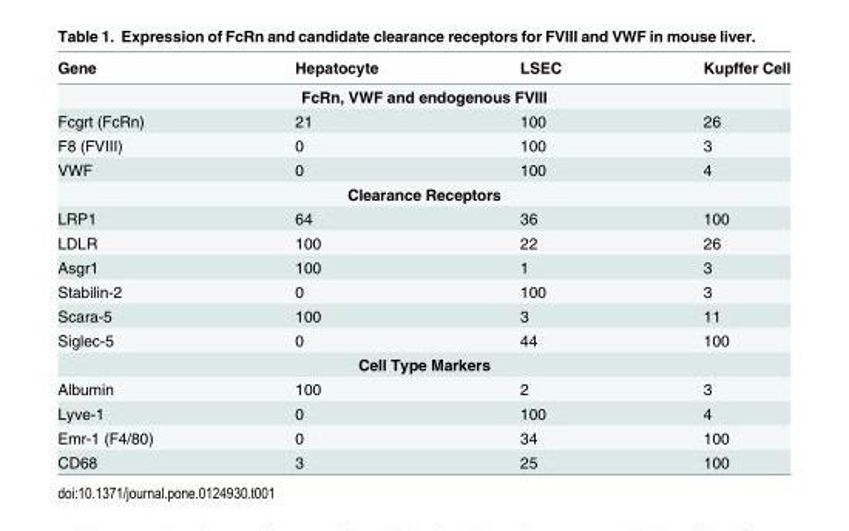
<table><thead><tr><td>Gene</td><td>Hepatocyte</td><td>LSEC</td><td>Kupffer Cell</td></tr></thead><tbody><tr><td colspan="4">FcRn, VWF and endogenous FVIII</td></tr><tr><td>Fcgrt (FcRn)</td><td>21</td><td>100</td><td>26</td></tr><tr><td>F8 (FVIII)</td><td>0</td><td>100</td><td>3</td></tr><tr><td>VWF</td><td>0</td><td>100</td><td>4</td></tr><tr><td colspan="4">Clearance Receptors</td></tr><tr><td>LRP1</td><td>64</td><td>36</td><td>100</td></tr><tr><td>LDLR</td><td>100</td><td>22</td><td>26</td></tr><tr><td>Asgr1</td><td>100</td><td>1</td><td>3</td></tr><tr><td>Stabilin-2</td><td>0</td><td>100</td><td>3</td></tr><tr><td>Scara-5</td><td>100</td><td>3</td><td>11</td></tr><tr><td>Siglec-5</td><td>0</td><td>44</td><td>100</td></tr><tr><td colspan="4">Cell Type Markers</td></tr><tr><td>Albumin</td><td>100</td><td>2</td><td>3</td></tr><tr><td>Lyve-1</td><td>0</td><td>100</td><td>4</td></tr><tr><td>Emr-1 (F4/80)</td><td>0</td><td>34</td><td>100</td></tr><tr><td>CD68</td><td>3</td><td>25</td><td>100</td></tr></tbody></table>